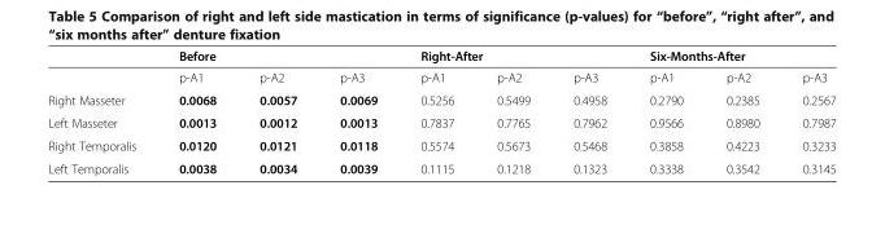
<table><thead><tr><td rowspan="2"></td><td colspan="3">Before</td><td colspan="3">Right-After</td><td colspan="3">Six-Months-After</td></tr><tr><td>p-A1</td><td>p-A2</td><td>p-A3</td><td>p-A1</td><td>p-A2</td><td>p-A3</td><td>p-A1</td><td>p-A2</td><td>p-A3</td></tr></thead><tbody><tr><td>Right Masseter</td><td>0.0068</td><td>0.0057</td><td>0.0069</td><td>0.5256</td><td>0.5499</td><td>0.4958</td><td>0.2790</td><td>0.2385</td><td>0.2567</td></tr><tr><td>Left Masseter</td><td>0.0013</td><td>0.0012</td><td>0.0013</td><td>0.7837</td><td>0.7765</td><td>0.7962</td><td>0.9566</td><td>0.8980</td><td>0.7987</td></tr><tr><td>Right Temporalis</td><td>0.0120</td><td>0.0121</td><td>0.0118</td><td>0.5574</td><td>0.5673</td><td>0.5468</td><td>0.3858</td><td>0.4223</td><td>0.3233</td></tr><tr><td>Left Temporalis</td><td>0.0038</td><td>0.0034</td><td>0.0039</td><td>0.1115</td><td>0.1218</td><td>0.1323</td><td>0.3338</td><td>0.3542</td><td>0.3145</td></tr></tbody></table>